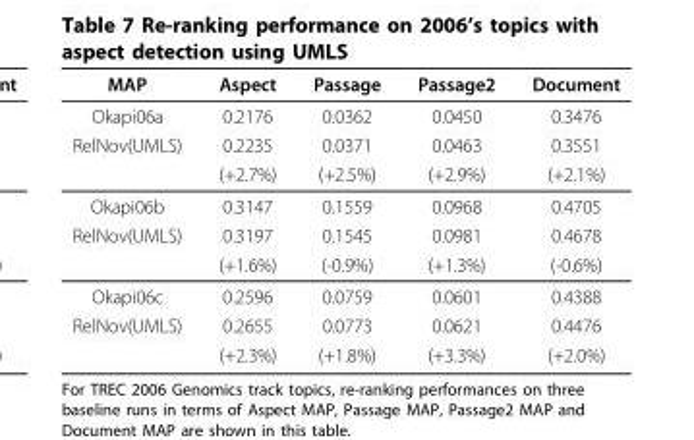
<table><thead><tr><td>MAP</td><td>Aspect</td><td>Passage</td><td>Passage2</td><td>Document</td></tr></thead><tbody><tr><td>Okapi06a</td><td>0.2176</td><td>0.0362</td><td>0.0450</td><td>0.3476</td></tr><tr><td rowspan="2">RelNov(UMLS)</td><td>0.2235</td><td>0.0371</td><td>0.0463</td><td>0.3551</td></tr><tr><td>(+2.7%)</td><td>(+2.5%)</td><td>(+2.9%)</td><td>(+2.1%)</td></tr><tr><td>Okapi06b</td><td>0.3147</td><td>0.1559</td><td>0.0968</td><td>0.4705</td></tr><tr><td rowspan="2">RelNov(UMLS)</td><td>0.3197</td><td>0.1545</td><td>0.0981</td><td>0.4678</td></tr><tr><td>(+1.6%)</td><td>(-0.9%)</td><td>(+1.3%)</td><td>(-0.6%)</td></tr><tr><td>Okapi06c</td><td>0.2596</td><td>0.0759</td><td>0.0601</td><td>0.4388</td></tr><tr><td rowspan="2">RelNov(UMLS)</td><td>0.2655</td><td>0.0773</td><td>0.0621</td><td>0.4476</td></tr><tr><td>(+2.3%)</td><td>(+1.8%)</td><td>(+3.3%)</td><td>(+2.0%)</td></tr></tbody></table>